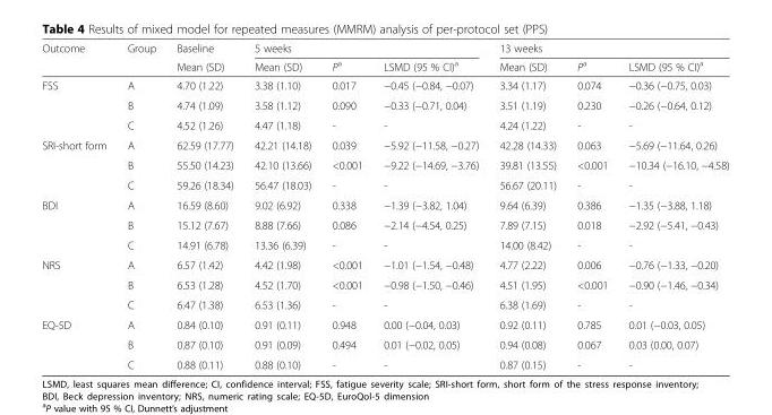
<table><thead><tr><td rowspan="2">Outcome</td><td rowspan="2">Group</td><td rowspan="2">Baseline Mean (SD)</td><td colspan="3">5 weeks</td><td colspan="3">13 weeks</td></tr><tr><td>Mean (SD)</td><td>P<sup>a</sup></td><td>LSMD (95 % CI)<sup>a</sup></td><td>Mean (SD)</td><td>P<sup>a</sup></td><td>LSMD (95 % CI)<sup>a</sup></td></tr></thead><tbody><tr><td rowspan="3">FSS</td><td>A</td><td>4.70 (1.22)</td><td>3.38 (1.10)</td><td>0.017</td><td>−0.45 (−0.84, −0.07)</td><td>3.34 (1.17)</td><td>0.074</td><td>−0.36 (−0.75, 0.03)</td></tr><tr><td>B</td><td>4.74 (1.09)</td><td>3.58 (1.12)</td><td>0.090</td><td>−0.33 (−0.71, 0.04)</td><td>3.51 (1.19)</td><td>0.230</td><td>−0.26 (−0.64, 0.12)</td></tr><tr><td>C</td><td>4.52 (1.26)</td><td>4.47 (1.18)</td><td>-</td><td>-</td><td>4.24 (1.22)</td><td>-</td><td>-</td></tr><tr><td rowspan="3">SRI-short form</td><td>A</td><td>62.59 (17.77)</td><td>42.21 (14.18)</td><td>0.039</td><td>−5.92 (−11.58, −0.27)</td><td>42.28 (14.33)</td><td>0.063</td><td>−5.69 (−11.64, 0.26)</td></tr><tr><td>B</td><td>55.50 (14.23)</td><td>42.10 (13.66)</td><td>&lt;0.001</td><td>−9.22 (−14.69, −3.76)</td><td>39.81 (13.55)</td><td>&lt;0.001</td><td>−10.34 (−16.10, −4.58)</td></tr><tr><td>C</td><td>59.26 (18.34)</td><td>56.47 (18.03)</td><td>-</td><td>-</td><td>56.67 (20.11)</td><td>-</td><td>-</td></tr><tr><td rowspan="3">BDI</td><td>A</td><td>16.59 (8.60)</td><td>9.02 (6.92)</td><td>0.338</td><td>−1.39 (−3.82, 1.04)</td><td>9.64 (6.39)</td><td>0.386</td><td>−1.35 (−3.88, 1.18)</td></tr><tr><td>B</td><td>15.12 (7.67)</td><td>8.88 (7.66)</td><td>0.086</td><td>−2.14 (−4.54, 0.25)</td><td>7.89 (7.15)</td><td>0.018</td><td>−2.92 (−5.41, −0.43)</td></tr><tr><td>C</td><td>14.91 (6.78)</td><td>13.36 (6.39)</td><td>-</td><td>-</td><td>14.00 (8.42)</td><td>-</td><td>-</td></tr><tr><td rowspan="3">NRS</td><td>A</td><td>6.57 (1.42)</td><td>4.42 (1.98)</td><td>&lt;0.001</td><td>−1.01 (−1.54, −0.48)</td><td>4.77 (2.22)</td><td>0.006</td><td>−0.76 (−1.33, −0.20)</td></tr><tr><td>B</td><td>6.53 (1.28)</td><td>4.52 (1.70)</td><td>&lt;0.001</td><td>−0.98 (−1.50, −0.46)</td><td>4.51 (1.95)</td><td>&lt;0.001</td><td>−0.90 (−1.46, −0.34)</td></tr><tr><td>C</td><td>6.47 (1.38)</td><td>6.53 (1.36)</td><td>-</td><td>-</td><td>6.38 (1.69)</td><td>-</td><td>-</td></tr><tr><td rowspan="3">EQ-5D</td><td>A</td><td>0.84 (0.10)</td><td>0.91 (0.11)</td><td>0.948</td><td>0.00 (−0.04, 0.03)</td><td>0.92 (0.11)</td><td>0.785</td><td>0.01 (−0.03, 0.05)</td></tr><tr><td>B</td><td>0.87 (0.10)</td><td>0.91 (0.09)</td><td>0.494</td><td>0.01 (−0.02, 0.05)</td><td>0.94 (0.08)</td><td>0.067</td><td>0.03 (0.00, 0.07)</td></tr><tr><td>C</td><td>0.88 (0.11)</td><td>0.88 (0.10)</td><td>-</td><td>-</td><td>0.87 (0.15)</td><td>-</td><td>-</td></tr></tbody></table>